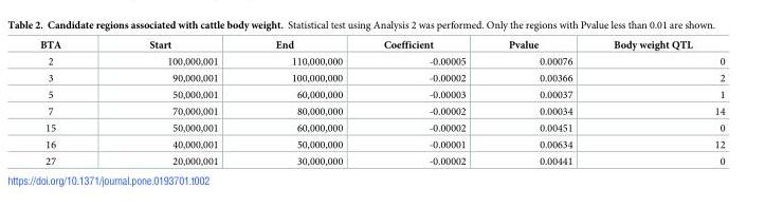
<table><thead><tr><td>BTA</td><td>Start</td><td>End</td><td>Coefficient</td><td>Pvalue</td><td>Body weight QTL</td></tr></thead><tbody><tr><td>2</td><td>100,000,001</td><td>110,000,000</td><td>-0.00005</td><td>0.00076</td><td>0</td></tr><tr><td>3</td><td>90,000,001</td><td>100,000,000</td><td>-0.00002</td><td>0.00366</td><td>2</td></tr><tr><td>5</td><td>50,000,001</td><td>60,000,000</td><td>-0.00003</td><td>0.00037</td><td>1</td></tr><tr><td>7</td><td>70,000,001</td><td>80,000,000</td><td>-0.00002</td><td>0.00034</td><td>14</td></tr><tr><td>15</td><td>50,000,001</td><td>60,000,000</td><td>-0.00002</td><td>0.00451</td><td>0</td></tr><tr><td>16</td><td>40,000,001</td><td>50,000,000</td><td>-0.00001</td><td>0.00634</td><td>12</td></tr><tr><td>27</td><td>20,000,001</td><td>30,000,000</td><td>-0.00002</td><td>0.00441</td><td>0</td></tr></tbody></table>